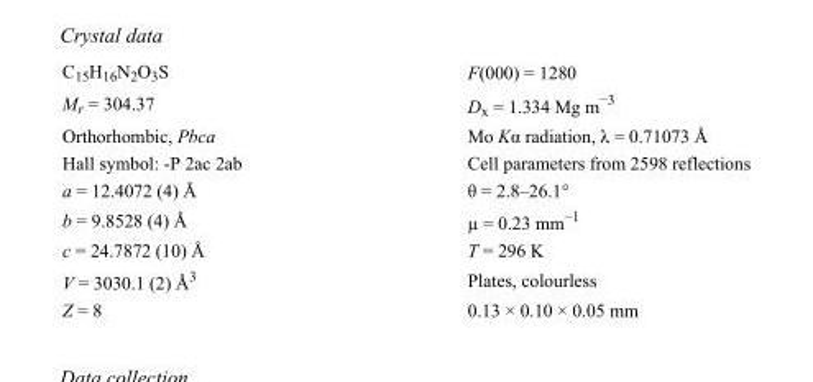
<table><tbody><tr><td>C<sub>15</sub>H<sub>16</sub>N<sub>2</sub>O<sub>3</sub>S</td><td>F(000) = 1280</td></tr><tr><td>M<sub>r</sub> = 304.37</td><td>D<sub>x</sub> = 1.334 Mg m<sup>−3</sup></td></tr><tr><td>Orthorhombic, Pbca</td><td>Mo Kα radiation, λ = 0.71073 Å</td></tr><tr><td>Hall symbol: -P 2ac 2ab</td><td>Cell parameters from 2598 reflections</td></tr><tr><td>a = 12.4072 (4) Å</td><td>θ = 2.8–26.1°</td></tr><tr><td>b = 9.8528 (4) Å</td><td>µ = 0.23 mm<sup>−1</sup></td></tr><tr><td>c = 24.7872 (10) Å</td><td>T = 296 K</td></tr><tr><td>V = 3030.1 (2) Å<sup>3</sup></td><td>Plates, colourless</td></tr><tr><td>Z = 8</td><td>0.13 × 0.10 × 0.05 mm</td></tr></tbody></table>